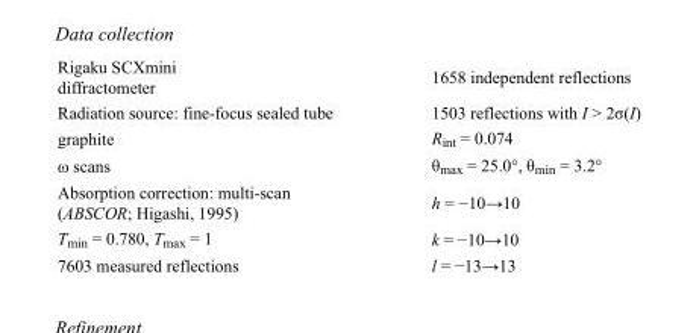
<table><tbody><tr><td>Rigaku SCXmini diffractometer</td><td>1658 independent reflections</td></tr><tr><td>Radiation source: fine-focus sealed tube</td><td>1503 reflections with I &gt; 2σ(I)</td></tr><tr><td>graphite</td><td>R<sub>int</sub> = 0.074</td></tr><tr><td>ω scans</td><td>θ<sub>max</sub> = 25.0°, θ<sub>min</sub> = 3.2°</td></tr><tr><td>Absorption correction: multi-scan (ABSCOR; Higashi, 1995)</td><td>h = −10→10</td></tr><tr><td>T<sub>min</sub> = 0.780, T<sub>max</sub> = 1</td><td>k = −10→10</td></tr><tr><td>7603 measured reflections</td><td>l = −13→13</td></tr></tbody></table>